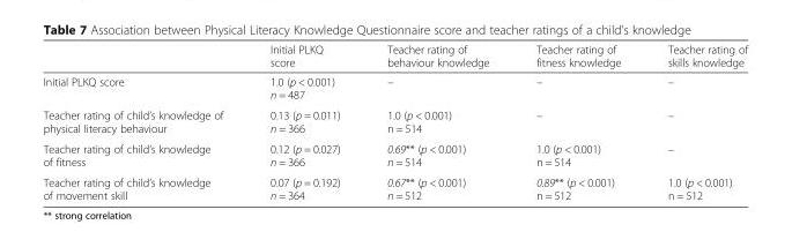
<table><thead><tr><td></td><td>Initial PLKQ score</td><td>Teacher rating of behaviour knowledge</td><td>Teacher rating of fitness knowledge</td><td>Teacher rating of skills knowledge</td></tr></thead><tbody><tr><td>Initial PLKQ score</td><td>1.0 (p &lt; 0.001) n = 487</td><td>–</td><td>–</td><td>–</td></tr><tr><td>Teacher rating of child’s knowledge of physical literacy behaviour</td><td>0.13 (p = 0.011) n = 366</td><td>1.0 (p &lt; 0.001) n = 514</td><td>–</td><td>–</td></tr><tr><td>Teacher rating of child’s knowledge of fitness</td><td>0.12 (p = 0.027) n = 366</td><td>0.69** (p &lt; 0.001) n = 514</td><td>1.0 (p &lt; 0.001) n = 514</td><td>–</td></tr><tr><td>Teacher rating of child’s knowledge of movement skill</td><td>0.07 (p = 0.192) n = 364</td><td>0.67** (p &lt; 0.001) n = 512</td><td>0.89** (p &lt; 0.001) n = 512</td><td>1.0 (p &lt; 0.001) n = 512</td></tr></tbody></table>